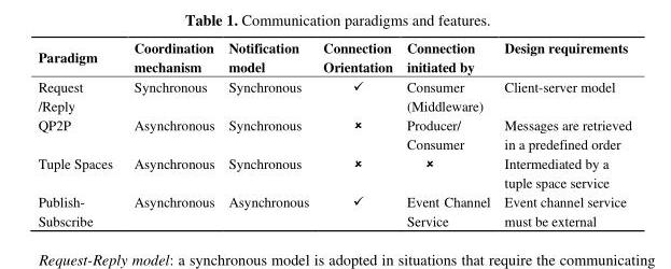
<table><thead><tr><td>Paradigm</td><td>Coordination mechanism</td><td>Notification model</td><td>Connection Orientation</td><td>Connection initiated by</td><td>Design requirements</td></tr></thead><tbody><tr><td>Request /Reply</td><td>Synchronous</td><td>Synchronous</td><td>✓</td><td>Consumer (Middleware)</td><td>Client-server model</td></tr><tr><td>QP2P</td><td>Asynchronous</td><td>Synchronous</td><td>✗</td><td>Producer/ Consumer</td><td>Messages are retrieved in a predefined order</td></tr><tr><td>Tuple Spaces</td><td>Asynchronous</td><td>Synchronous</td><td>✗</td><td>✗</td><td>Intermediated by a tuple space service</td></tr><tr><td>Publish- Subscribe</td><td>Asynchronous</td><td>Asynchronous</td><td>✓</td><td>Event Channel Service</td><td>Event channel service must be external</td></tr></tbody></table>